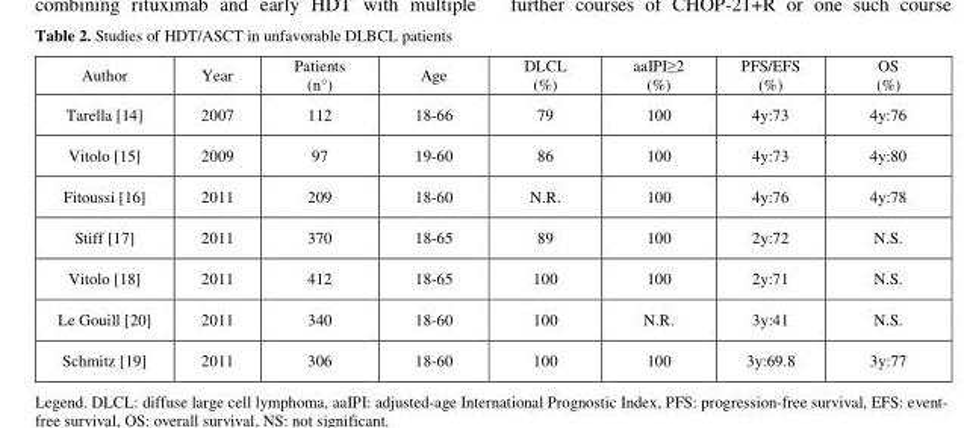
<table><thead><tr><td>Author</td><td>Year</td><td>Patients (n°)</td><td>Age</td><td>DLCL (%)</td><td>aaIPI≥2 (%)</td><td>PFS/EFS (%)</td><td>OS (%)</td></tr></thead><tbody><tr><td>Tarella [14]</td><td>2007</td><td>112</td><td>18-66</td><td>79</td><td>100</td><td>4y:73</td><td>4y:76</td></tr><tr><td>Vitolo [15]</td><td>2009</td><td>97</td><td>19-60</td><td>86</td><td>100</td><td>4y:73</td><td>4y:80</td></tr><tr><td>Fitoussi [16]</td><td>2011</td><td>209</td><td>18-60</td><td>N.R.</td><td>100</td><td>4y:76</td><td>4y:78</td></tr><tr><td>Stiff [17]</td><td>2011</td><td>370</td><td>18-65</td><td>89</td><td>100</td><td>2y:72</td><td>N.S.</td></tr><tr><td>Vitolo [18]</td><td>2011</td><td>412</td><td>18-65</td><td>100</td><td>100</td><td>2y:71</td><td>N.S.</td></tr><tr><td>Le Gouill [20]</td><td>2011</td><td>340</td><td>18-60</td><td>100</td><td>N.R.</td><td>3y:41</td><td>N.S.</td></tr><tr><td>Schmitz [19]</td><td>2011</td><td>306</td><td>18-60</td><td>100</td><td>100</td><td>3y:69.8</td><td>3y:77</td></tr></tbody></table>